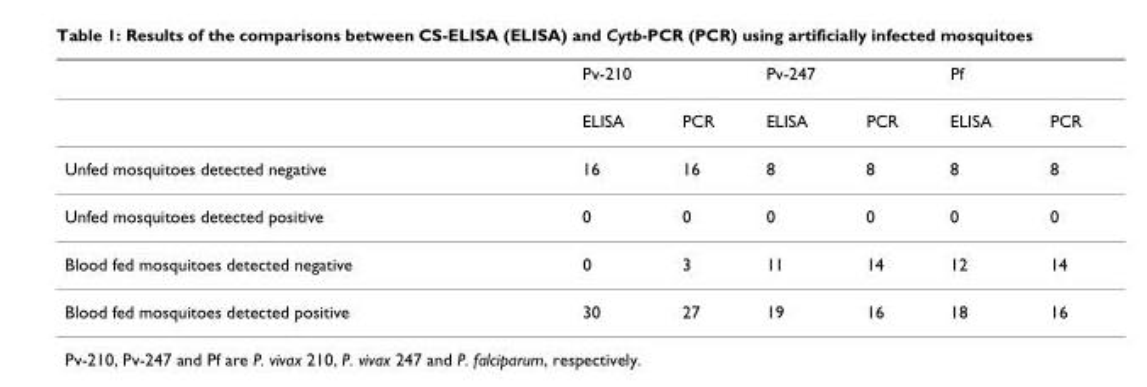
<table><thead><tr><td rowspan="2"></td><td colspan="2">Pv-210</td><td colspan="2">Pv-247</td><td colspan="2">Pf</td></tr><tr><td>ELISA</td><td>PCR</td><td>ELISA</td><td>PCR</td><td>ELISA</td><td>PCR</td></tr></thead><tbody><tr><td>Unfed mosquitoes detected negative</td><td>16</td><td>16</td><td>8</td><td>8</td><td>8</td><td>8</td></tr><tr><td>Unfed mosquitoes detected positive</td><td>0</td><td>0</td><td>0</td><td>0</td><td>0</td><td>0</td></tr><tr><td>Blood fed mosquitoes detected negative</td><td>0</td><td>3</td><td>11</td><td>14</td><td>12</td><td>14</td></tr><tr><td>Blood fed mosquitoes detected positive</td><td>30</td><td>27</td><td>19</td><td>16</td><td>18</td><td>16</td></tr></tbody></table>